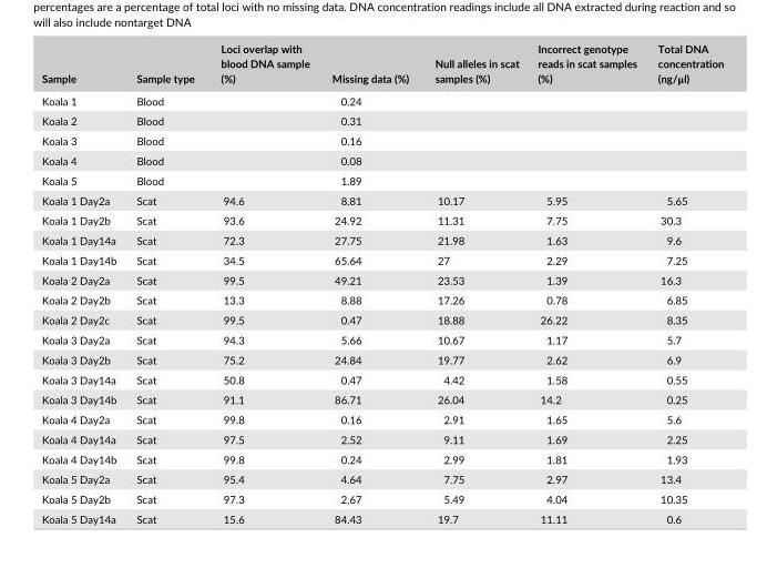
<table><thead><tr><td>Sample</td><td>Sample type</td><td>Loci overlap with blood DNA sample (%)</td><td>Missing data (%)</td><td>Null alleles in scat samples (%)</td><td>Incorrect genotype reads in scat samples (%)</td><td>Total DNA concentration (ng/μl)</td></tr></thead><tbody><tr><td>Koala 1</td><td>Blood</td><td></td><td>0.24</td><td></td><td></td><td></td></tr><tr><td>Koala 2</td><td>Blood</td><td></td><td>0.31</td><td></td><td></td><td></td></tr><tr><td>Koala 3</td><td>Blood</td><td></td><td>0.16</td><td></td><td></td><td></td></tr><tr><td>Koala 4</td><td>Blood</td><td></td><td>0.08</td><td></td><td></td><td></td></tr><tr><td>Koala 5</td><td>Blood</td><td></td><td>1.89</td><td></td><td></td><td></td></tr><tr><td>Koala 1 Day2a</td><td>Scat</td><td>94.6</td><td>8.81</td><td>10.17</td><td>5.95</td><td>5.65</td></tr><tr><td>Koala 1 Day2b</td><td>Scat</td><td>93.6</td><td>24.92</td><td>11.31</td><td>7.75</td><td>30.3</td></tr><tr><td>Koala 1 Day14a</td><td>Scat</td><td>72.3</td><td>27.75</td><td>21.98</td><td>1.63</td><td>9.6</td></tr><tr><td>Koala 1 Day14b</td><td>Scat</td><td>34.5</td><td>65.64</td><td>27</td><td>2.29</td><td>7.25</td></tr><tr><td>Koala 2 Day2a</td><td>Scat</td><td>99.5</td><td>49.21</td><td>23.53</td><td>1.39</td><td>16.3</td></tr><tr><td>Koala 2 Day2b</td><td>Scat</td><td>13.3</td><td>8.88</td><td>17.26</td><td>0.78</td><td>6.85</td></tr><tr><td>Koala 2 Day2c</td><td>Scat</td><td>99.5</td><td>0.47</td><td>18.88</td><td>26.22</td><td>8.35</td></tr><tr><td>Koala 3 Day2a</td><td>Scat</td><td>94.3</td><td>5.66</td><td>10.67</td><td>1.17</td><td>5.7</td></tr><tr><td>Koala 3 Day2b</td><td>Scat</td><td>75.2</td><td>24.84</td><td>19.77</td><td>2.62</td><td>6.9</td></tr><tr><td>Koala 3 Day14a</td><td>Scat</td><td>50.8</td><td>0.47</td><td>4.42</td><td>1.58</td><td>0.55</td></tr><tr><td>Koala 3 Day14b</td><td>Scat</td><td>91.1</td><td>86.71</td><td>26.04</td><td>14.2</td><td>0.25</td></tr><tr><td>Koala 4 Day2a</td><td>Scat</td><td>99.8</td><td>0.16</td><td>2.91</td><td>1.65</td><td>5.6</td></tr><tr><td>Koala 4 Day14a</td><td>Scat</td><td>97.5</td><td>2.52</td><td>9.11</td><td>1.69</td><td>2.25</td></tr><tr><td>Koala 4 Day14b</td><td>Scat</td><td>99.8</td><td>0.24</td><td>2.99</td><td>1.81</td><td>1.93</td></tr><tr><td>Koala 5 Day2a</td><td>Scat</td><td>95.4</td><td>4.64</td><td>7.75</td><td>2.97</td><td>13.4</td></tr><tr><td>Koala 5 Day2b</td><td>Scat</td><td>97.3</td><td>2.67</td><td>5.49</td><td>4.04</td><td>10.35</td></tr><tr><td>Koala 5 Day14a</td><td>Scat</td><td>15.6</td><td>84.43</td><td>19.7</td><td>11.11</td><td>0.6</td></tr></tbody></table>